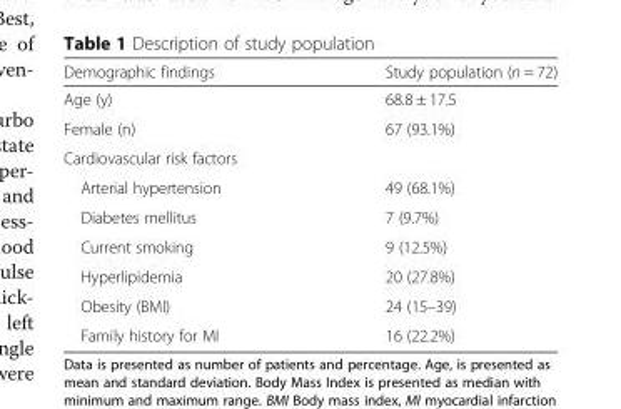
<table><thead><tr><td>Demographic findings</td><td>Study population (n = 72)</td></tr></thead><tbody><tr><td>Age (y)</td><td>68.8 ± 17.5</td></tr><tr><td>Female (n)</td><td>67 (93.1%)</td></tr><tr><td colspan="2">Cardiovascular risk factors</td></tr><tr><td>Arterial hypertension</td><td>49 (68.1%)</td></tr><tr><td>Diabetes mellitus</td><td>7 (9.7%)</td></tr><tr><td>Current smoking</td><td>9 (12.5%)</td></tr><tr><td>Hyperlipidemia</td><td>20 (27.8%)</td></tr><tr><td>Obesity (BMI)</td><td>24 (15–39)</td></tr><tr><td>Family history for MI</td><td>16 (22.2%)</td></tr></tbody></table>